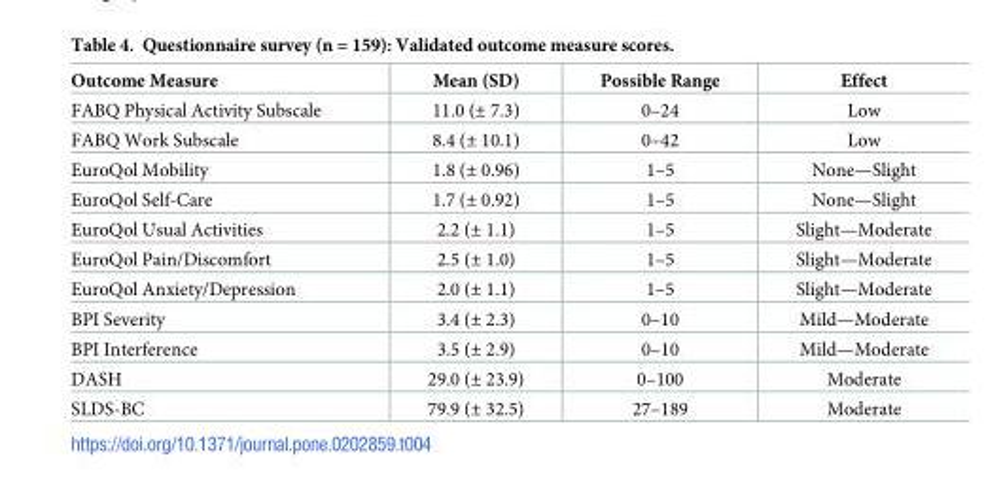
<table><thead><tr><td>Outcome Measure</td><td>Mean (SD)</td><td>Possible Range</td><td>Effect</td></tr></thead><tbody><tr><td>FABQ Physical Activity Subscale</td><td>11.0 (± 7.3)</td><td>0–24</td><td>Low</td></tr><tr><td>FABQ Work Subscale</td><td>8.4 (± 10.1)</td><td>0–42</td><td>Low</td></tr><tr><td>EuroQol Mobility</td><td>1.8 (± 0.96)</td><td>1–5</td><td>None—Slight</td></tr><tr><td>EuroQol Self-Care</td><td>1.7 (± 0.92)</td><td>1–5</td><td>None—Slight</td></tr><tr><td>EuroQol Usual Activities</td><td>2.2 (± 1.1)</td><td>1–5</td><td>Slight—Moderate</td></tr><tr><td>EuroQol Pain/Discomfort</td><td>2.5 (± 1.0)</td><td>1–5</td><td>Slight—Moderate</td></tr><tr><td>EuroQol Anxiety/Depression</td><td>2.0 (± 1.1)</td><td>1–5</td><td>Slight—Moderate</td></tr><tr><td>BPI Severity</td><td>3.4 (± 2.3)</td><td>0–10</td><td>Mild—Moderate</td></tr><tr><td>BPI Interference</td><td>3.5 (± 2.9)</td><td>0–10</td><td>Mild—Moderate</td></tr><tr><td>DASH</td><td>29.0 (± 23.9)</td><td>0–100</td><td>Moderate</td></tr><tr><td>SLDS-BC</td><td>79.9 (± 32.5)</td><td>27–189</td><td>Moderate</td></tr></tbody></table>